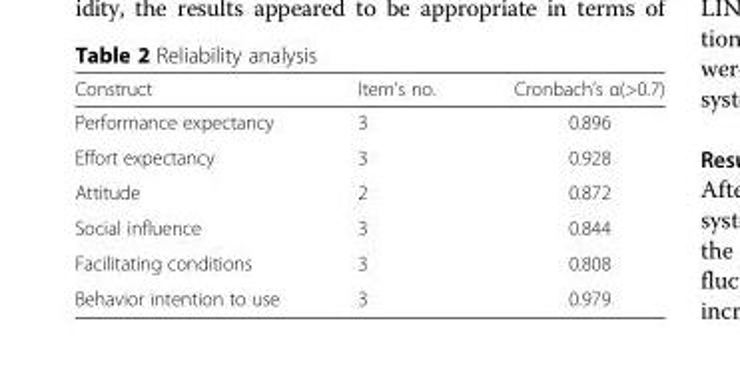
<table><thead><tr><td>Construct</td><td>Item’s no.</td><td>Cronbach’s α(&gt;0.7)</td></tr></thead><tbody><tr><td>Performance expectancy</td><td>3</td><td>0.896</td></tr><tr><td>Effort expectancy</td><td>3</td><td>0.928</td></tr><tr><td>Attitude</td><td>2</td><td>0.872</td></tr><tr><td>Social influence</td><td>3</td><td>0.844</td></tr><tr><td>Facilitating conditions</td><td>3</td><td>0.808</td></tr><tr><td>Behavior intention to use</td><td>3</td><td>0.979</td></tr></tbody></table>